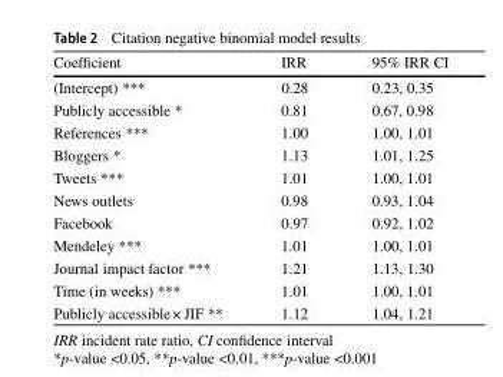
<table><thead><tr><td>Coefficient</td><td>IRR</td><td>95% IRR CI</td></tr></thead><tbody><tr><td>(Intercept) ***</td><td>0.28</td><td>0.23, 0.35</td></tr><tr><td>Publicly accessible *</td><td>0.81</td><td>0.67, 0.98</td></tr><tr><td>References ***</td><td>1.00</td><td>1.00, 1.01</td></tr><tr><td>Bloggers *</td><td>1.13</td><td>1.01, 1.25</td></tr><tr><td>Tweets ***</td><td>1.01</td><td>1.00, 1.01</td></tr><tr><td>News outlets</td><td>0.98</td><td>0.93, 1.04</td></tr><tr><td>Facebook</td><td>0.97</td><td>0.92, 1.02</td></tr><tr><td>Mendeley ***</td><td>1.01</td><td>1.00, 1.01</td></tr><tr><td>Journal impact factor ***</td><td>1.21</td><td>1.13, 1.30</td></tr><tr><td>Time (in weeks) ***</td><td>1.01</td><td>1.00, 1.01</td></tr><tr><td>Publicly accessible× JIF **</td><td>1.12</td><td>1.04, 1.21</td></tr></tbody></table>